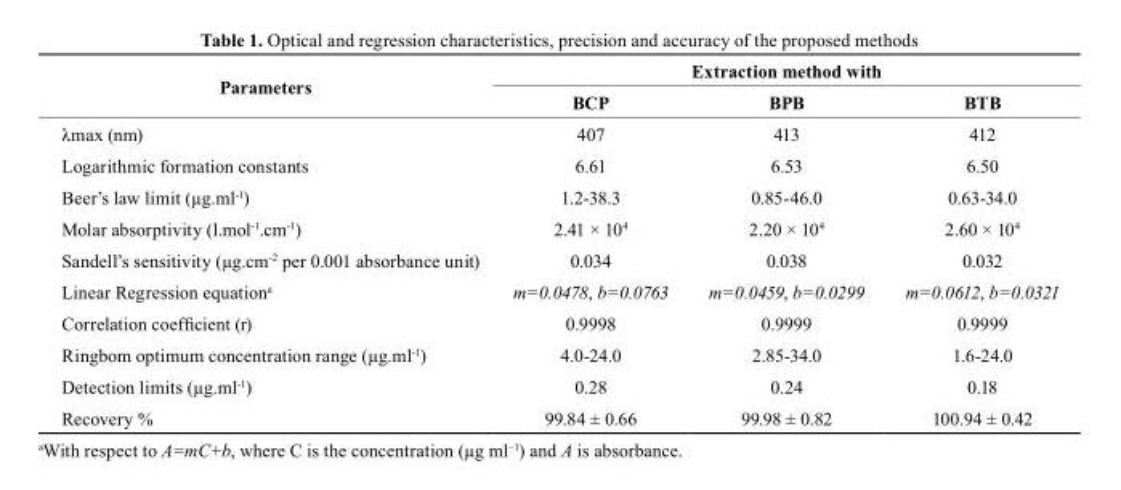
<table><thead><tr><td rowspan="2">Parameters</td><td colspan="3">Extraction method with</td></tr><tr><td>bcP</td><td>bPb</td><td>btb</td></tr></thead><tbody><tr><td>λmax (nm)</td><td>407</td><td>413</td><td>412</td></tr><tr><td>Logarithmic formation constants</td><td>6.61</td><td>6.53</td><td>6.50</td></tr><tr><td>Beer’s law limit (µg.ml<sup>-1</sup>)</td><td>1.2-38.3</td><td>0.85-46.0</td><td>0.63-34.0</td></tr><tr><td>Molar absorptivity (l.mol<sup>-1</sup>.cm<sup>-1</sup>)</td><td>2.41 × 10<sup>4</sup></td><td>2.20 × 10<sup>4</sup></td><td>2.60 × 10<sup>4</sup></td></tr><tr><td>Sandell’s sensitivity (µg.cm<sup>-2</sup> per 0.001 absorbance unit)</td><td>0.034</td><td>0.038</td><td>0.032</td></tr><tr><td>Linear Regression equation<sup>a</sup></td><td>m=0.0478, b=0.0763</td><td>m=0.0459, b=0.0299</td><td>m=0.0612, b=0.0321</td></tr><tr><td>Correlation coefficient (r)</td><td>0.9998</td><td>0.9999</td><td>0.9999</td></tr><tr><td>Ringbom optimum concentration range (µg.ml<sup>-1</sup>)</td><td>4.0-24.0</td><td>2.85-34.0</td><td>1.6-24.0</td></tr><tr><td>Detection limits (µg.ml<sup>-1</sup>)</td><td>0.28</td><td>0.24</td><td>0.18</td></tr><tr><td>Recovery %</td><td>99.84 ± 0.66</td><td>99.98 ± 0.82</td><td>100.94 ± 0.42</td></tr></tbody></table>